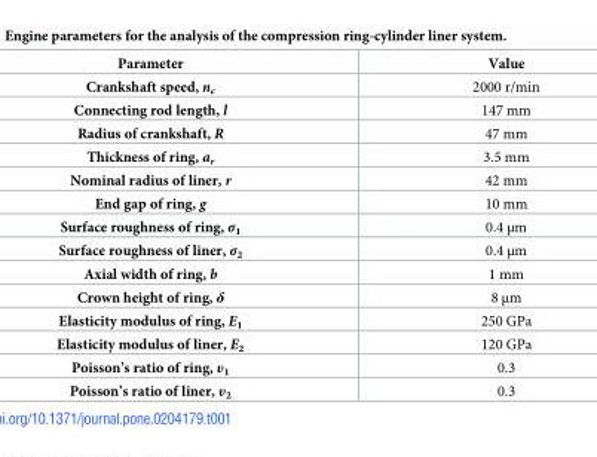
<table><thead><tr><td>Parameter</td><td>Value</td></tr></thead><tbody><tr><td>Crankshaft speed, n<sub>c</sub></td><td>2000 r/min</td></tr><tr><td>Connecting rod length, l</td><td>147 mm</td></tr><tr><td>Radius of crankshaft, R</td><td>47 mm</td></tr><tr><td>Thickness of ring, a<sub>r</sub></td><td>3.5 mm</td></tr><tr><td>Nominal radius of liner, r</td><td>42 mm</td></tr><tr><td>End gap of ring, g</td><td>10 mm</td></tr><tr><td>Surface roughness of ring, σ<sub>1</sub></td><td>0.4 μm</td></tr><tr><td>Surface roughness of liner, σ<sub>2</sub></td><td>0.4 μm</td></tr><tr><td>Axial width of ring, b</td><td>1 mm</td></tr><tr><td>Crown height of ring, δ</td><td>8 μm</td></tr><tr><td>Elasticity modulus of ring, E<sub>1</sub></td><td>250 GPa</td></tr><tr><td>Elasticity modulus of liner, E<sub>2</sub></td><td>120 GPa</td></tr><tr><td>Poisson’s ratio of ring, υ<sub>1</sub></td><td>0.3</td></tr><tr><td>Poisson’s ratio of liner, υ<sub>2</sub></td><td>0.3</td></tr></tbody></table>